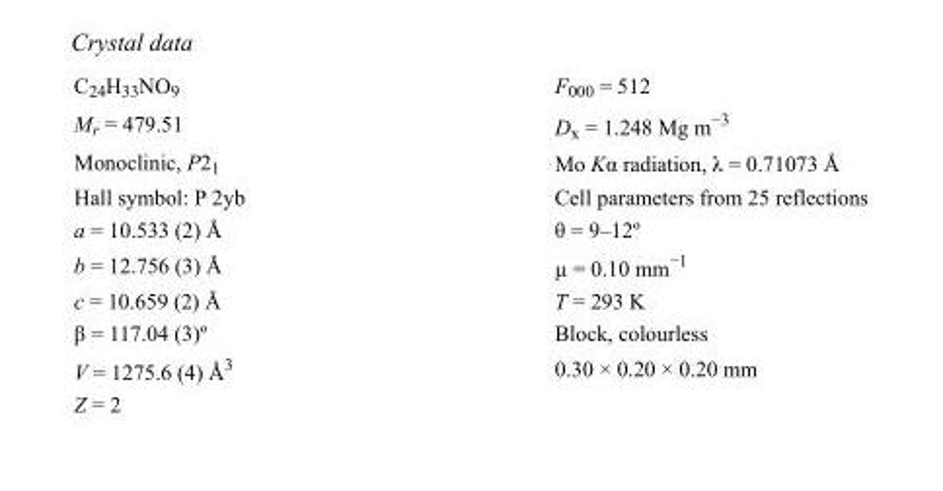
<table><tbody><tr><td>C<sub>24</sub>H<sub>33</sub>NO<sub>9</sub></td><td>F000 = 512</td></tr><tr><td>M<sub>r</sub> = 479.51</td><td>D<sub>x</sub> = 1.248 Mg m<sup>−3</sup></td></tr><tr><td>Monoclinic, P2<sub>1</sub></td><td>Mo Kα radiation, λ = 0.71073 Å</td></tr><tr><td>Hall symbol: P 2yb</td><td>Cell parameters from 25 reflections</td></tr><tr><td>a = 10.533 (2) Å</td><td>θ = 9–12º</td></tr><tr><td>b = 12.756 (3) Å</td><td>µ = 0.10 mm<sup>−1</sup></td></tr><tr><td>c = 10.659 (2) Å</td><td>T = 293 K</td></tr><tr><td>β = 117.04 (3)º</td><td>Block, colourless</td></tr><tr><td>V = 1275.6 (4) Å<sup>3</sup></td><td>0.30 × 0.20 × 0.20 mm</td></tr><tr><td>Z = 2</td><td></td></tr></tbody></table>